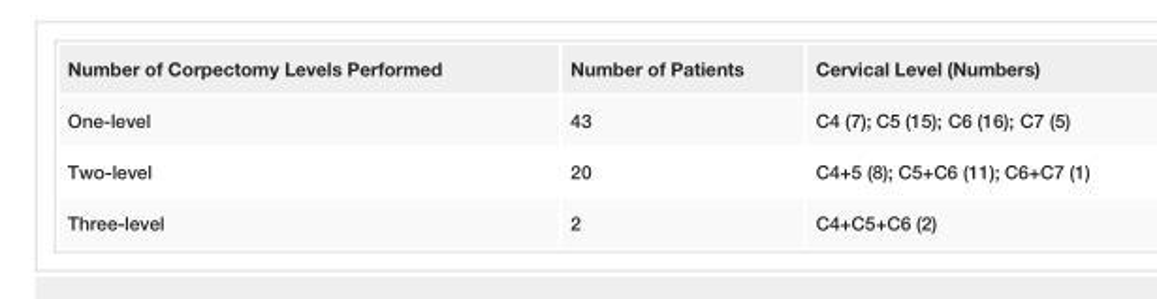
<table><tbody><tr><td>Number of Corpectomy Levels Performed</td><td>Number of Patients</td><td>Cervical Level (Numbers)</td></tr><tr><td>One-level</td><td>43</td><td>C4 (7); C5 (15); C6 (16); C7 (5)</td></tr><tr><td>Two-level</td><td>20</td><td>C4+5 (8); C5+C6 (11); C6+C7 (1)</td></tr><tr><td>Three-level</td><td>2</td><td>C4+C5+C6 (2)</td></tr></tbody></table>